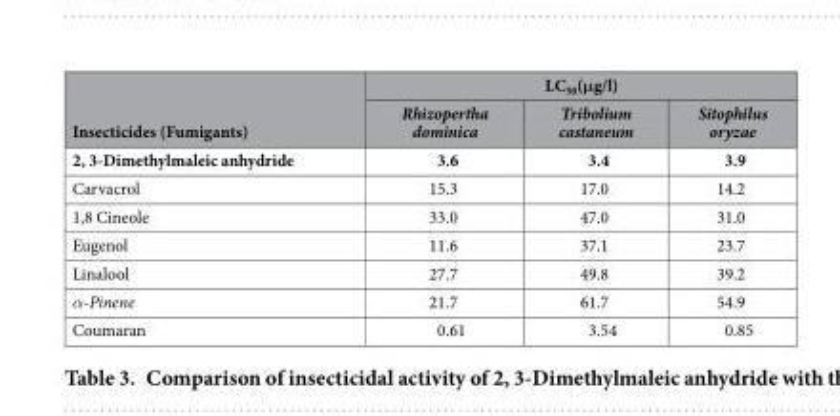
<table><thead><tr><td rowspan="2">Insecticides (Fumigants)</td><td colspan="3">LC<sub>50</sub>(μg/l)</td></tr><tr><td>Rhizopertha dominica</td><td>Tribolium castaneum</td><td>Sitophilus oryzae</td></tr></thead><tbody><tr><td>2, 3-Dimethylmaleic anhydride</td><td>3.6</td><td>3.4</td><td>3.9</td></tr><tr><td>Carvacrol</td><td>15.3</td><td>17.0</td><td>14.2</td></tr><tr><td>1,8 Cineole</td><td>33.0</td><td>47.0</td><td>31.0</td></tr><tr><td>Eugenol</td><td>11.6</td><td>37.1</td><td>23.7</td></tr><tr><td>Linalool</td><td>27.7</td><td>49.8</td><td>39.2</td></tr><tr><td>α-Pinene</td><td>21.7</td><td>61.7</td><td>54.9</td></tr><tr><td>Coumaran</td><td>0.61</td><td>3.54</td><td>0.85</td></tr></tbody></table>